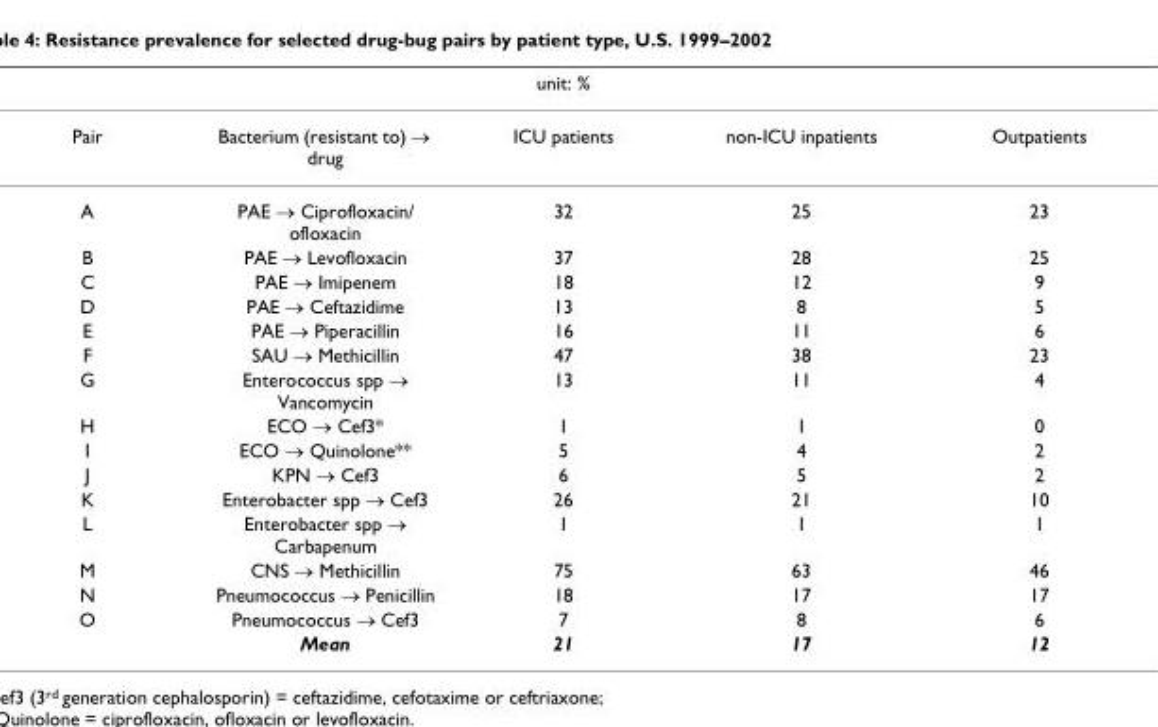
<table><thead><tr><td colspan="5">unit: %</td></tr><tr><td>Pair</td><td>Bacterium (resistant to) → drug</td><td>ICU patients</td><td>non-ICU inpatients</td><td>Outpatients</td></tr></thead><tbody><tr><td>A</td><td>PAE → Ciprofloxacin/ ofloxacin</td><td>32</td><td>25</td><td>23</td></tr><tr><td>B</td><td>PAE → Levofloxacin</td><td>37</td><td>28</td><td>25</td></tr><tr><td>C</td><td>PAE → Imipenem</td><td>18</td><td>12</td><td>9</td></tr><tr><td>D</td><td>PAE → Ceftazidime</td><td>13</td><td>8</td><td>5</td></tr><tr><td>E</td><td>PAE → Piperacillin</td><td>16</td><td>11</td><td>6</td></tr><tr><td>F</td><td>SAU → Methicillin</td><td>47</td><td>38</td><td>23</td></tr><tr><td>G</td><td>Enterococcus spp → Vancomycin</td><td>13</td><td>11</td><td>4</td></tr><tr><td>H</td><td>ECO → Cef3*</td><td>1</td><td>1</td><td>0</td></tr><tr><td>I</td><td>ECO → Quinolone**</td><td>5</td><td>4</td><td>2</td></tr><tr><td>J</td><td>KPN → Cef3</td><td>6</td><td>5</td><td>2</td></tr><tr><td>K</td><td>Enterobacter spp → Cef3</td><td>26</td><td>21</td><td>10</td></tr><tr><td>L</td><td>Enterobacter spp → Carbapenum</td><td>1</td><td>1</td><td>1</td></tr><tr><td>M</td><td>CNS → Methicillin</td><td>75</td><td>63</td><td>46</td></tr><tr><td>N</td><td>Pneumococcus → Penicillin</td><td>18</td><td>17</td><td>17</td></tr><tr><td rowspan="2">O</td><td>Pneumococcus → Cef3</td><td>7</td><td>8</td><td>6</td></tr><tr><td>Mean</td><td>21</td><td>17</td><td>12</td></tr></tbody></table>